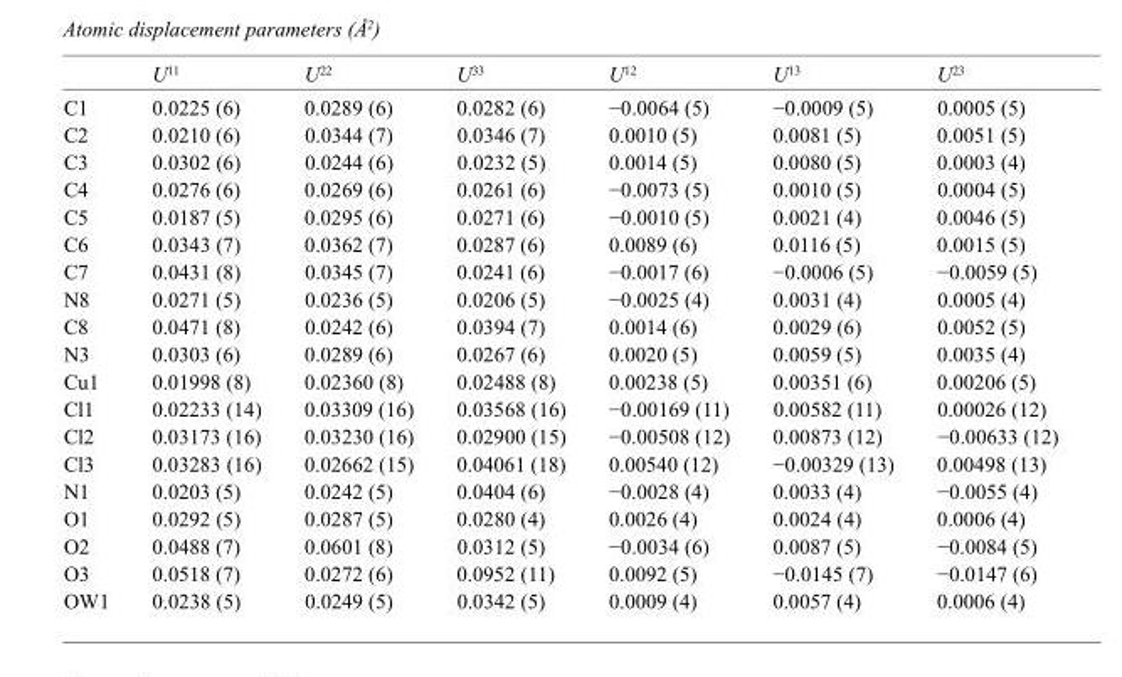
<table><thead><tr><td></td><td>U<sup>11</sup></td><td>U<sup>22</sup></td><td>U<sup>33</sup></td><td>U<sup>12</sup></td><td>U<sup>13</sup></td><td>U<sup>23</sup></td></tr></thead><tbody><tr><td>C1</td><td>0.0225 (6)</td><td>0.0289 (6)</td><td>0.0282 (6)</td><td>−0.0064 (5)</td><td>−0.0009 (5)</td><td>0.0005 (5)</td></tr><tr><td>C2</td><td>0.0210 (6)</td><td>0.0344 (7)</td><td>0.0346 (7)</td><td>0.0010 (5)</td><td>0.0081 (5)</td><td>0.0051 (5)</td></tr><tr><td>C3</td><td>0.0302 (6)</td><td>0.0244 (6)</td><td>0.0232 (5)</td><td>0.0014 (5)</td><td>0.0080 (5)</td><td>0.0003 (4)</td></tr><tr><td>C4</td><td>0.0276 (6)</td><td>0.0269 (6)</td><td>0.0261 (6)</td><td>−0.0073 (5)</td><td>0.0010 (5)</td><td>0.0004 (5)</td></tr><tr><td>C5</td><td>0.0187 (5)</td><td>0.0295 (6)</td><td>0.0271 (6)</td><td>−0.0010 (5)</td><td>0.0021 (4)</td><td>0.0046 (5)</td></tr><tr><td>C6</td><td>0.0343 (7)</td><td>0.0362 (7)</td><td>0.0287 (6)</td><td>0.0089 (6)</td><td>0.0116 (5)</td><td>0.0015 (5)</td></tr><tr><td>C7</td><td>0.0431 (8)</td><td>0.0345 (7)</td><td>0.0241 (6)</td><td>−0.0017 (6)</td><td>−0.0006 (5)</td><td>−0.0059 (5)</td></tr><tr><td>N8</td><td>0.0271 (5)</td><td>0.0236 (5)</td><td>0.0206 (5)</td><td>−0.0025 (4)</td><td>0.0031 (4)</td><td>0.0005 (4)</td></tr><tr><td>C8</td><td>0.0471 (8)</td><td>0.0242 (6)</td><td>0.0394 (7)</td><td>0.0014 (6)</td><td>0.0029 (6)</td><td>0.0052 (5)</td></tr><tr><td>N3</td><td>0.0303 (6)</td><td>0.0289 (6)</td><td>0.0267 (6)</td><td>0.0020 (5)</td><td>0.0059 (5)</td><td>0.0035 (4)</td></tr><tr><td>Cu1</td><td>0.01998 (8)</td><td>0.02360 (8)</td><td>0.02488 (8)</td><td>0.00238 (5)</td><td>0.00351 (6)</td><td>0.00206 (5)</td></tr><tr><td>Cl1</td><td>0.02233 (14)</td><td>0.03309 (16)</td><td>0.03568 (16)</td><td>−0.00169 (11)</td><td>0.00582 (11)</td><td>0.00026 (12)</td></tr><tr><td>Cl2</td><td>0.03173 (16)</td><td>0.03230 (16)</td><td>0.02900 (15)</td><td>−0.00508 (12)</td><td>0.00873 (12)</td><td>−0.00633 (12)</td></tr><tr><td>Cl3</td><td>0.03283 (16)</td><td>0.02662 (15)</td><td>0.04061 (18)</td><td>0.00540 (12)</td><td>−0.00329 (13)</td><td>0.00498 (13)</td></tr><tr><td>N1</td><td>0.0203 (5)</td><td>0.0242 (5)</td><td>0.0404 (6)</td><td>−0.0028 (4)</td><td>0.0033 (4)</td><td>−0.0055 (4)</td></tr><tr><td>O1</td><td>0.0292 (5)</td><td>0.0287 (5)</td><td>0.0280 (4)</td><td>0.0026 (4)</td><td>0.0024 (4)</td><td>0.0006 (4)</td></tr><tr><td>O2</td><td>0.0488 (7)</td><td>0.0601 (8)</td><td>0.0312 (5)</td><td>−0.0034 (6)</td><td>0.0087 (5)</td><td>−0.0084 (5)</td></tr><tr><td>O3</td><td>0.0518 (7)</td><td>0.0272 (6)</td><td>0.0952 (11)</td><td>0.0092 (5)</td><td>−0.0145 (7)</td><td>−0.0147 (6)</td></tr><tr><td>OW1</td><td>0.0238 (5)</td><td>0.0249 (5)</td><td>0.0342 (5)</td><td>0.0009 (4)</td><td>0.0057 (4)</td><td>0.0006 (4)</td></tr></tbody></table>